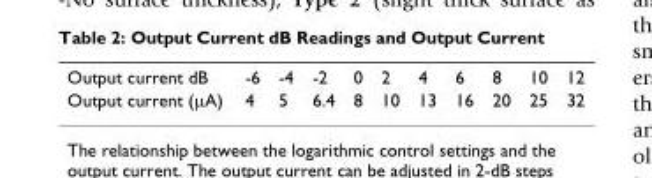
<table><tbody><tr><td>Output current dB</td><td>-6</td><td>-4</td><td>-2</td><td>0</td><td>2</td><td>4</td><td>6</td><td>8</td><td>10</td><td>12</td></tr><tr><td>Output current (μA)</td><td>4</td><td>5</td><td>6.4</td><td>8</td><td>10</td><td>13</td><td>16</td><td>20</td><td>25</td><td>32</td></tr></tbody></table>